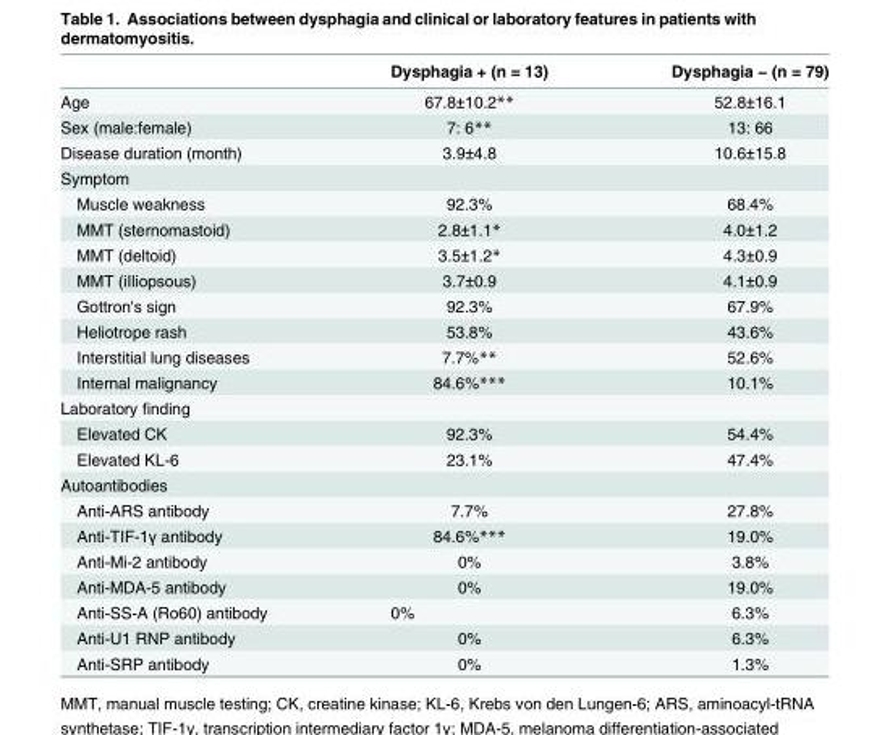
<table><thead><tr><td></td><td>Dysphagia + (n = 13)</td><td>Dysphagia − (n = 79)</td></tr></thead><tbody><tr><td>Age</td><td>67.8±10.2**</td><td>52.8±16.1</td></tr><tr><td>Sex (male:female)</td><td>7: 6**</td><td>13: 66</td></tr><tr><td>Disease duration (month)</td><td>3.9±4.8</td><td>10.6±15.8</td></tr><tr><td colspan="3">Symptom</td></tr><tr><td>Muscle weakness</td><td>92.3%</td><td>68.4%</td></tr><tr><td>MMT (sternomastoid)</td><td>2.8±1.1*</td><td>4.0±1.2</td></tr><tr><td>MMT (deltoid)</td><td>3.5±1.2*</td><td>4.3±0.9</td></tr><tr><td>MMT (iIliopsous)</td><td>3.7±0.9</td><td>4.1±0.9</td></tr><tr><td>Gottron&#x27;s sign</td><td>92.3%</td><td>67.9%</td></tr><tr><td>Heliotrope rash</td><td>53.8%</td><td>43.6%</td></tr><tr><td>Interstitial lung diseases</td><td>7.7%**</td><td>52.6%</td></tr><tr><td>Internal malignancy</td><td>84.6%***</td><td>10.1%</td></tr><tr><td colspan="3">Laboratory finding</td></tr><tr><td>Elevated CK</td><td>92.3%</td><td>54.4%</td></tr><tr><td>Elevated KL-6</td><td>23.1%</td><td>47.4%</td></tr><tr><td colspan="3">Autoantibodies</td></tr><tr><td>Anti-ARS antibody</td><td>7.7%</td><td>27.8%</td></tr><tr><td>Anti-TIF-1γ antibody</td><td>84.6%***</td><td>19.0%</td></tr><tr><td>Anti-Mi-2 antibody</td><td>0%</td><td>3.8%</td></tr><tr><td>Anti-MDA-5 antibody</td><td>0%</td><td>19.0%</td></tr><tr><td>Anti-SS-A (Ro60) antibody</td><td>0%</td><td>6.3%</td></tr><tr><td>Anti-U1 RNP antibody</td><td>0%</td><td>6.3%</td></tr><tr><td>Anti-SRP antibody</td><td>0%</td><td>1.3%</td></tr></tbody></table>